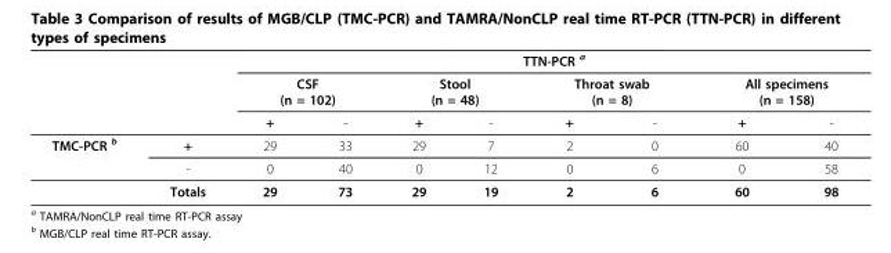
<table><thead><tr><td rowspan="3"></td><td rowspan="3"></td><td colspan="8">TTN-PCR <sup>a</sup></td></tr><tr><td colspan="2">CSF (n = 102)</td><td colspan="2">Stool (n = 48)</td><td colspan="2">Throat swab (n = 8)</td><td colspan="2">All specimens (n = 158)</td></tr><tr><td>+</td><td>-</td><td>+</td><td>-</td><td>+</td><td>-</td><td>+</td><td>-</td></tr></thead><tbody><tr><td rowspan="3">TMC-PCR <sup>b</sup></td><td>+</td><td>29</td><td>33</td><td>29</td><td>7</td><td>2</td><td>0</td><td>60</td><td>40</td></tr><tr><td>-</td><td>0</td><td>40</td><td>0</td><td>12</td><td>0</td><td>6</td><td>0</td><td>58</td></tr><tr><td>Totals</td><td>29</td><td>73</td><td>29</td><td>19</td><td>2</td><td>6</td><td>60</td><td>98</td></tr></tbody></table>